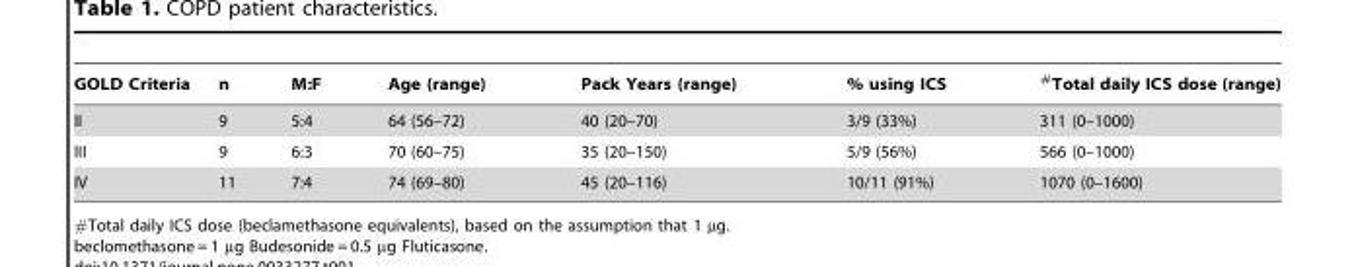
<table><thead><tr><td>GOLD Criteria</td><td>n</td><td>M:F</td><td>Age (range)</td><td>Pack Years (range)</td><td>% using ICS</td><td>#Total daily ICS dose (range)</td></tr></thead><tbody><tr><td>II</td><td>9</td><td>5:4</td><td>64 (56–72)</td><td>40 (20–70)</td><td>3/9 (33%)</td><td>311 (0–1000)</td></tr><tr><td>III</td><td>9</td><td>6:3</td><td>70 (60–75)</td><td>35 (20–150)</td><td>5/9 (56%)</td><td>566 (0–1000)</td></tr><tr><td>IV</td><td>11</td><td>7:4</td><td>74 (69–80)</td><td>45 (20–116)</td><td>10/11 (91%)</td><td>1070 (0–1600)</td></tr></tbody></table>